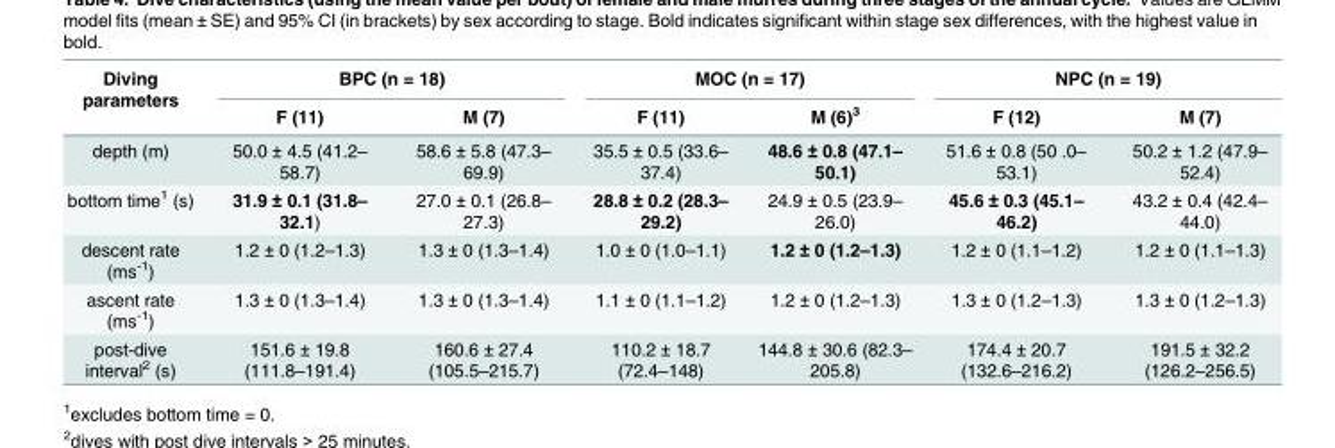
<table><thead><tr><td rowspan="2">Diving parameters</td><td colspan="2">BPC (n = 18)</td><td colspan="2">MOC (n = 17)</td><td colspan="2">NPC (n = 19)</td></tr><tr><td>F (11)</td><td>M (7)</td><td>F (11)</td><td>M (6)<sup>3</sup></td><td>F (12)</td><td>M (7)</td></tr></thead><tbody><tr><td>depth (m)</td><td>50.0 ± 4.5 (41.2– 58.7)</td><td>58.6 ± 5.8 (47.3– 69.9)</td><td>35.5 ± 0.5 (33.6– 37.4)</td><td>48.6 ± 0.8 (47.1– 50.1)</td><td>51.6 ± 0.8 (50 .0– 53.1)</td><td>50.2 ± 1.2 (47.9– 52.4)</td></tr><tr><td>bottom time<sup>1</sup> (s)</td><td>31.9 ± 0.1 (31.8– 32.1)</td><td>27.0 ± 0.1 (26.8– 27.3)</td><td>28.8 ± 0.2 (28.3– 29.2)</td><td>24.9 ± 0.5 (23.9– 26.0)</td><td>45.6 ± 0.3 (45.1– 46.2)</td><td>43.2 ± 0.4 (42.4– 44.0)</td></tr><tr><td>descent rate (ms<sup>-1</sup>)</td><td>1.2 ± 0 (1.2–1.3)</td><td>1.3 ± 0 (1.3–1.4)</td><td>1.0 ± 0 (1.0–1.1)</td><td>1.2 ± 0 (1.2–1.3)</td><td>1.2 ± 0 (1.1–1.2)</td><td>1.2 ± 0 (1.1–1.3)</td></tr><tr><td>ascent rate (ms<sup>-1</sup>)</td><td>1.3 ± 0 (1.3–1.4)</td><td>1.3 ± 0 (1.3–1.4)</td><td>1.1 ± 0 (1.1–1.2)</td><td>1.2 ± 0 (1.2–1.3)</td><td>1.3 ± 0 (1.2–1.3)</td><td>1.3 ± 0 (1.2–1.3)</td></tr><tr><td>post-dive interval<sup>2</sup> (s)</td><td>151.6 ± 19.8 (111.8–191.4)</td><td>160.6 ± 27.4 (105.5–215.7)</td><td>110.2 ± 18.7 (72.4–148)</td><td>144.8 ± 30.6 (82.3– 205.8)</td><td>174.4 ± 20.7 (132.6–216.2)</td><td>191.5 ± 32.2 (126.2–256.5)</td></tr></tbody></table>